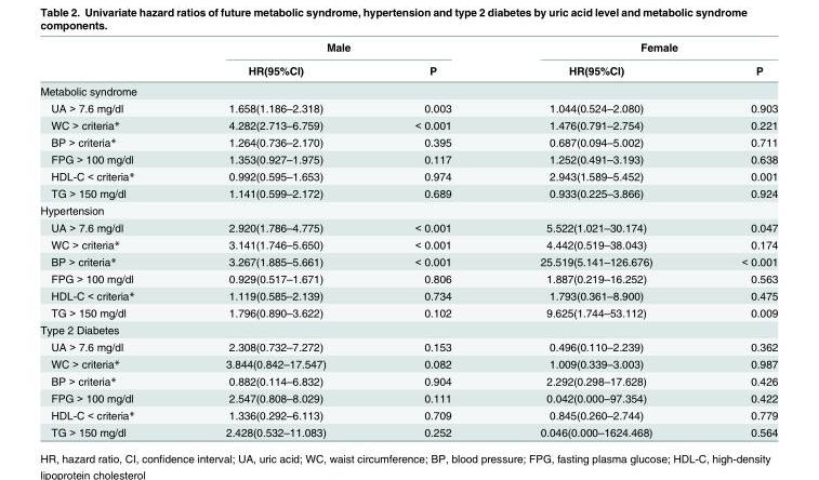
<table><thead><tr><td rowspan="2"></td><td colspan="2">Male</td><td colspan="2">Female</td></tr><tr><td>HR(95%CI)</td><td>P</td><td>HR(95%CI)</td><td>P</td></tr></thead><tbody><tr><td colspan="5">Metabolic syndrome</td></tr><tr><td>UA &gt; 7.6 mg/dl</td><td>1.658(1.186–2.318)</td><td>0.003</td><td>1.044(0.524–2.080)</td><td>0.903</td></tr><tr><td>WC &gt; criteria*</td><td>4.282(2.713–6.759)</td><td>&lt; 0.001</td><td>1.476(0.791–2.754)</td><td>0.221</td></tr><tr><td>BP &gt; criteria*</td><td>1.264(0.736–2.170)</td><td>0.395</td><td>0.687(0.094–5.002)</td><td>0.711</td></tr><tr><td>FPG &gt; 100 mg/dl</td><td>1.353(0.927–1.975)</td><td>0.117</td><td>1.252(0.491–3.193)</td><td>0.638</td></tr><tr><td>HDL-C &lt; criteria*</td><td>0.992(0.595–1.653)</td><td>0.974</td><td>2.943(1.589–5.452)</td><td>0.001</td></tr><tr><td>TG &gt; 150 mg/dl</td><td>1.141(0.599–2.172)</td><td>0.689</td><td>0.933(0.225–3.866)</td><td>0.924</td></tr><tr><td colspan="5">Hypertension</td></tr><tr><td>UA &gt; 7.6 mg/dl</td><td>2.920(1.786–4.775)</td><td>&lt; 0.001</td><td>5.522(1.021–30.174)</td><td>0.047</td></tr><tr><td>WC &gt; criteria*</td><td>3.141(1.746–5.650)</td><td>&lt; 0.001</td><td>4.442(0.519–38.043)</td><td>0.174</td></tr><tr><td>BP &gt; criteria*</td><td>3.267(1.885–5.661)</td><td>&lt; 0.001</td><td>25.519(5.141–126.676)</td><td>&lt; 0.001</td></tr><tr><td>FPG &gt; 100 mg/dl</td><td>0.929(0.517–1.671)</td><td>0.806</td><td>1.887(0.219–16.252)</td><td>0.563</td></tr><tr><td>HDL-C &lt; criteria*</td><td>1.119(0.585–2.139)</td><td>0.734</td><td>1.793(0.361–8.900)</td><td>0.475</td></tr><tr><td>TG &gt; 150 mg/dl</td><td>1.796(0.890–3.622)</td><td>0.102</td><td>9.625(1.744–53.112)</td><td>0.009</td></tr><tr><td colspan="5">Type 2 Diabetes</td></tr><tr><td>UA &gt; 7.6 mg/dl</td><td>2.308(0.732–7.272)</td><td>0.153</td><td>0.496(0.110–2.239)</td><td>0.362</td></tr><tr><td>WC &gt; criteria*</td><td>3.844(0.842–17.547)</td><td>0.082</td><td>1.009(0.339–3.003)</td><td>0.987</td></tr><tr><td>BP &gt; criteria*</td><td>0.882(0.114–6.832)</td><td>0.904</td><td>2.292(0.298–17.628)</td><td>0.426</td></tr><tr><td>FPG &gt; 100 mg/dl</td><td>2.547(0.808–8.029)</td><td>0.111</td><td>0.042(0.000–97.354)</td><td>0.422</td></tr><tr><td>HDL-C &lt; criteria*</td><td>1.336(0.292–6.113)</td><td>0.709</td><td>0.845(0.260–2.744)</td><td>0.779</td></tr><tr><td>TG &gt; 150 mg/dl</td><td>2.428(0.532–11.083)</td><td>0.252</td><td>0.046(0.000–1624.468)</td><td>0.564</td></tr></tbody></table>